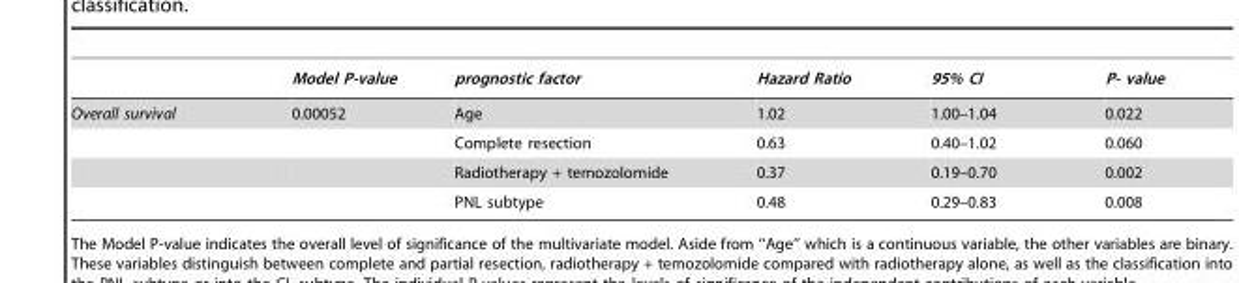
<table><thead><tr><td></td><td>Model P-value</td><td>prognostic factor</td><td>Hazard Ratio</td><td>95% CI</td><td>P- value</td></tr></thead><tbody><tr><td rowspan="4">Overall survival</td><td>0.00052</td><td>Age</td><td>1.02</td><td>1.00–1.04</td><td>0.022</td></tr><tr><td></td><td>Complete resection</td><td>0.63</td><td>0.40–1.02</td><td>0.060</td></tr><tr><td></td><td>Radiotherapy + temozolomide</td><td>0.37</td><td>0.19–0.70</td><td>0.002</td></tr><tr><td></td><td>PNL subtype</td><td>0.48</td><td>0.29–0.83</td><td>0.008</td></tr></tbody></table>